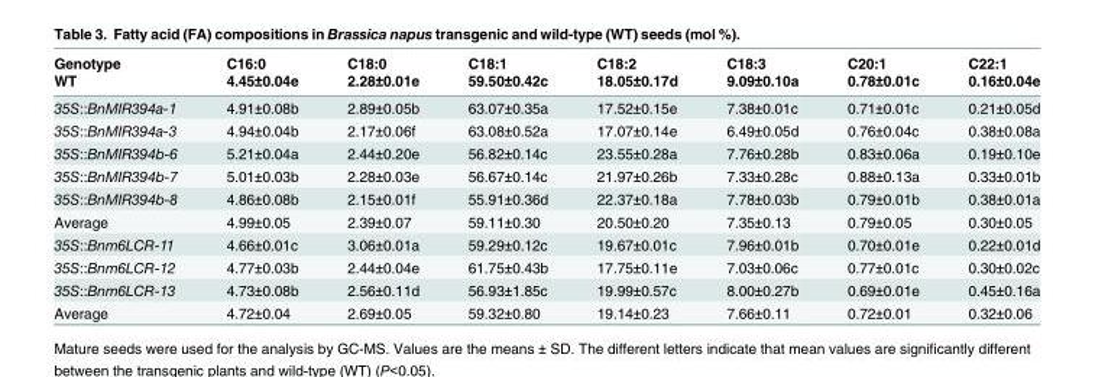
<table><thead><tr><td rowspan="2">Genotype WT</td><td rowspan="2">C16:0 4.45±0.04e</td><td rowspan="2">C18:0 2.28±0.01e</td><td rowspan="2">C18:1 59.50±0.42c</td><td rowspan="2">C18:2 18.05±0.17d</td><td rowspan="2">C18:3 9.09±0.10a</td><td rowspan="2">C20:1 0.78±0.01c</td><td rowspan="2">C22:1 0.16±0.04e</td></tr><tr></tr></thead><tbody><tr><td>35S::BnMIR394a-1</td><td>4.91±0.08b</td><td>2.89±0.05b</td><td>63.07±0.35a</td><td>17.52±0.15e</td><td>7.38±0.01c</td><td>0.71±0.01c</td><td>0.21±0.05d</td></tr><tr><td>35S::BnMIR394a-3</td><td>4.94±0.04b</td><td>2.17±0.06f</td><td>63.08±0.52a</td><td>17.07±0.14e</td><td>6.49±0.05d</td><td>0.76±0.04c</td><td>0.38±0.08a</td></tr><tr><td>35S::BnMIR394b-6</td><td>5.21±0.04a</td><td>2.44±0.20e</td><td>56.82±0.14c</td><td>23.55±0.28a</td><td>7.76±0.28b</td><td>0.83±0.06a</td><td>0.19±0.10e</td></tr><tr><td>35S::BnMIR394b-7</td><td>5.01±0.03b</td><td>2.28±0.03e</td><td>56.67±0.14c</td><td>21.97±0.26b</td><td>7.33±0.28c</td><td>0.88±0.13a</td><td>0.33±0.01b</td></tr><tr><td>35S::BnMIR394b-8</td><td>4.86±0.08b</td><td>2.15±0.01f</td><td>55.91±0.36d</td><td>22.37±0.18a</td><td>7.78±0.03b</td><td>0.79±0.01b</td><td>0.38±0.01a</td></tr><tr><td>Average</td><td>4.99±0.05</td><td>2.39±0.07</td><td>59.11±0.30</td><td>20.50±0.20</td><td>7.35±0.13</td><td>0.79±0.05</td><td>0.30±0.05</td></tr><tr><td>35S::Bnm6LCR-11</td><td>4.66±0.01c</td><td>3.06±0.01a</td><td>59.29±0.12c</td><td>19.67±0.01c</td><td>7.96±0.01b</td><td>0.70±0.01e</td><td>0.22±0.01d</td></tr><tr><td>35S::Bnm6LCR-12</td><td>4.77±0.03b</td><td>2.44±0.04e</td><td>61.75±0.43b</td><td>17.75±0.11e</td><td>7.03±0.06c</td><td>0.77±0.01c</td><td>0.30±0.02c</td></tr><tr><td>35S::Bnm6LCR-13</td><td>4.73±0.08b</td><td>2.56±0.11d</td><td>56.93±1.85c</td><td>19.99±0.57c</td><td>8.00±0.27b</td><td>0.69±0.01e</td><td>0.45±0.16a</td></tr><tr><td>Average</td><td>4.72±0.04</td><td>2.69±0.05</td><td>59.32±0.80</td><td>19.14±0.23</td><td>7.66±0.11</td><td>0.72±0.01</td><td>0.32±0.06</td></tr></tbody></table>